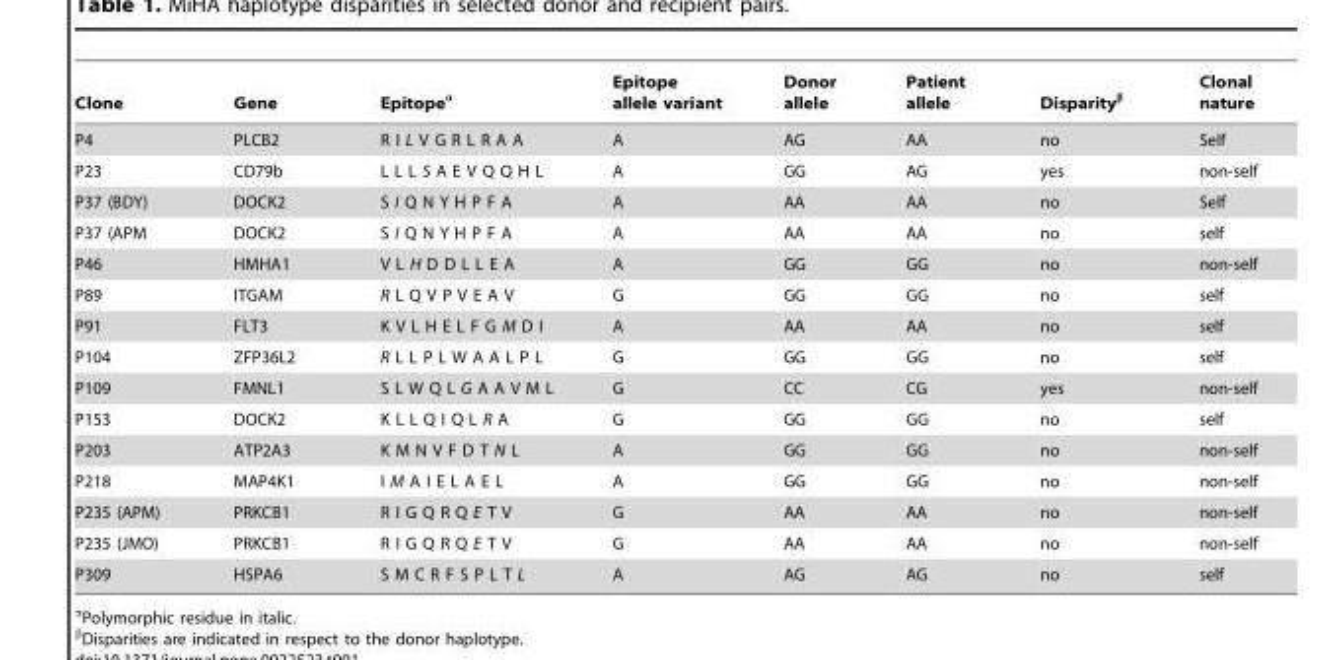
<table><thead><tr><td>Clone</td><td>Gene</td><td>Epitopeα</td><td>Epitope allele variant</td><td>Donor allele</td><td>Patient allele</td><td>Disparityβ</td><td>Clonal nature</td></tr></thead><tbody><tr><td>P4</td><td>PLCB2</td><td>R I L V G R L R A A</td><td>A</td><td>AG</td><td>AA</td><td>no</td><td>Self</td></tr><tr><td>P23</td><td>CD79b</td><td>L L L S A E V Q Q H L</td><td>A</td><td>GG</td><td>AG</td><td>yes</td><td>non-self</td></tr><tr><td>P37 (BDY)</td><td>DOCK2</td><td>S I Q N Y H P F A</td><td>A</td><td>AA</td><td>AA</td><td>no</td><td>Self</td></tr><tr><td>P37 (APM</td><td>DOCK2</td><td>S I Q N Y H P F A</td><td>A</td><td>AA</td><td>AA</td><td>no</td><td>self</td></tr><tr><td>P46</td><td>HMHA1</td><td>V L H D D L L E A</td><td>A</td><td>GG</td><td>GG</td><td>no</td><td>non-self</td></tr><tr><td>P89</td><td>ITGAM</td><td>R L Q V P V E A V</td><td>G</td><td>GG</td><td>GG</td><td>no</td><td>self</td></tr><tr><td>P91</td><td>FLT3</td><td>K V L H E L F G M D I</td><td>A</td><td>AA</td><td>AA</td><td>no</td><td>self</td></tr><tr><td>P104</td><td>ZFP36L2</td><td>R L L P L W A A L P L</td><td>G</td><td>GG</td><td>GG</td><td>no</td><td>self</td></tr><tr><td>P109</td><td>FMNL1</td><td>S L W Q L G A A V M L</td><td>G</td><td>CC</td><td>CG</td><td>yes</td><td>non-self</td></tr><tr><td>P153</td><td>DOCK2</td><td>K L L Q I Q L R A</td><td>G</td><td>GG</td><td>GG</td><td>no</td><td>self</td></tr><tr><td>P203</td><td>ATP2A3</td><td>K M N V F D T N L</td><td>A</td><td>GG</td><td>GG</td><td>no</td><td>non-self</td></tr><tr><td>P218</td><td>MAP4K1</td><td>I M A I E L A E L</td><td>A</td><td>GG</td><td>GG</td><td>no</td><td>non-self</td></tr><tr><td>P235 (APM)</td><td>PRKCB1</td><td>R I G Q R Q E T V</td><td>G</td><td>AA</td><td>AA</td><td>no</td><td>non-self</td></tr><tr><td>P235 (JMO)</td><td>PRKCB1</td><td>R I G Q R Q E T V</td><td>G</td><td>AA</td><td>AA</td><td>no</td><td>non-self</td></tr><tr><td>P309</td><td>HSPA6</td><td>S M C R F S P L T L</td><td>A</td><td>AG</td><td>AG</td><td>no</td><td>self</td></tr></tbody></table>